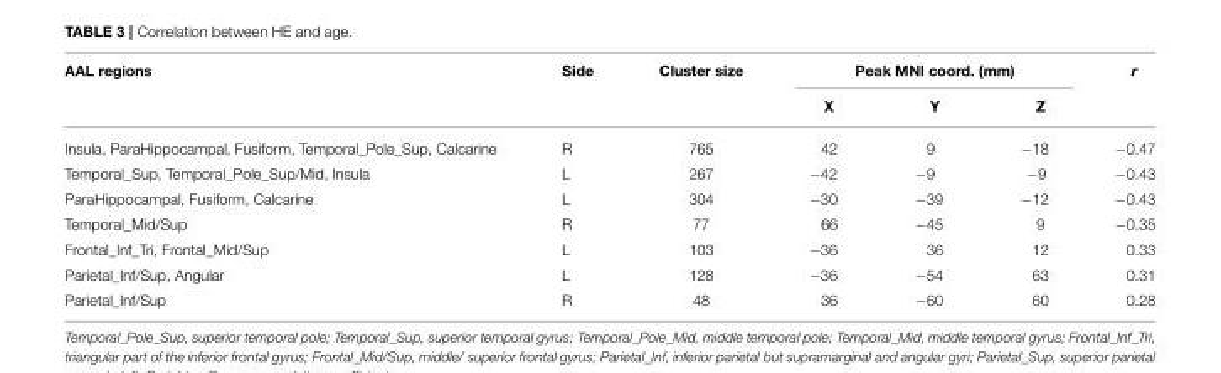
<table><thead><tr><td rowspan="2">AAL regions</td><td rowspan="2">Side</td><td rowspan="2">Cluster size</td><td colspan="3">Peak MNI coord. (mm)</td><td rowspan="2">r</td></tr><tr><td>X</td><td>Y</td><td>Z</td></tr></thead><tbody><tr><td>Insula, ParaHippocampal, Fusiform, Temporal_Pole_Sup, Calcarine</td><td>R</td><td>765</td><td>42</td><td>9</td><td>−18</td><td>−0.47</td></tr><tr><td>Temporal_Sup, Temporal_Pole_Sup/Mid, Insula</td><td>L</td><td>267</td><td>−42</td><td>−9</td><td>−9</td><td>−0.43</td></tr><tr><td>ParaHippocampal, Fusiform, Calcarine</td><td>L</td><td>304</td><td>−30</td><td>−39</td><td>−12</td><td>−0.43</td></tr><tr><td>Temporal_Mid/Sup</td><td>R</td><td>77</td><td>66</td><td>−45</td><td>9</td><td>−0.35</td></tr><tr><td>Frontal_Inf_Tri, Frontal_Mid/Sup</td><td>L</td><td>103</td><td>−36</td><td>36</td><td>12</td><td>0.33</td></tr><tr><td>Parietal_Inf/Sup, Angular</td><td>L</td><td>128</td><td>−36</td><td>−54</td><td>63</td><td>0.31</td></tr><tr><td>Parietal_Inf/Sup</td><td>R</td><td>48</td><td>36</td><td>−60</td><td>60</td><td>0.28</td></tr></tbody></table>